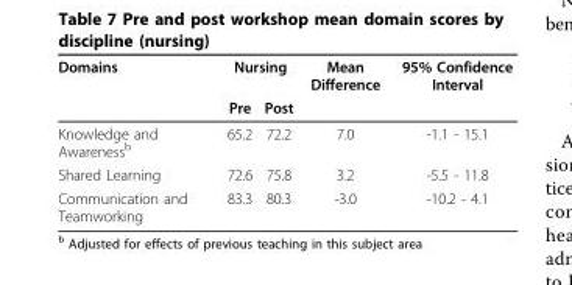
<table><thead><tr><td rowspan="2">Domains</td><td colspan="2">Nursing</td><td rowspan="2">Mean Difference</td><td rowspan="2">95% Confidence Interval</td></tr><tr><td>Pre</td><td>Post</td></tr></thead><tbody><tr><td>Knowledge and Awareness<sup>b</sup></td><td>65.2</td><td>72.2</td><td>7.0</td><td>-1.1 - 15.1</td></tr><tr><td>Shared Learning</td><td>72.6</td><td>75.8</td><td>3.2</td><td>-5.5 - 11.8</td></tr><tr><td>Communication and Teamworking</td><td>83.3</td><td>80.3</td><td>-3.0</td><td>-10.2 - 4.1</td></tr></tbody></table>